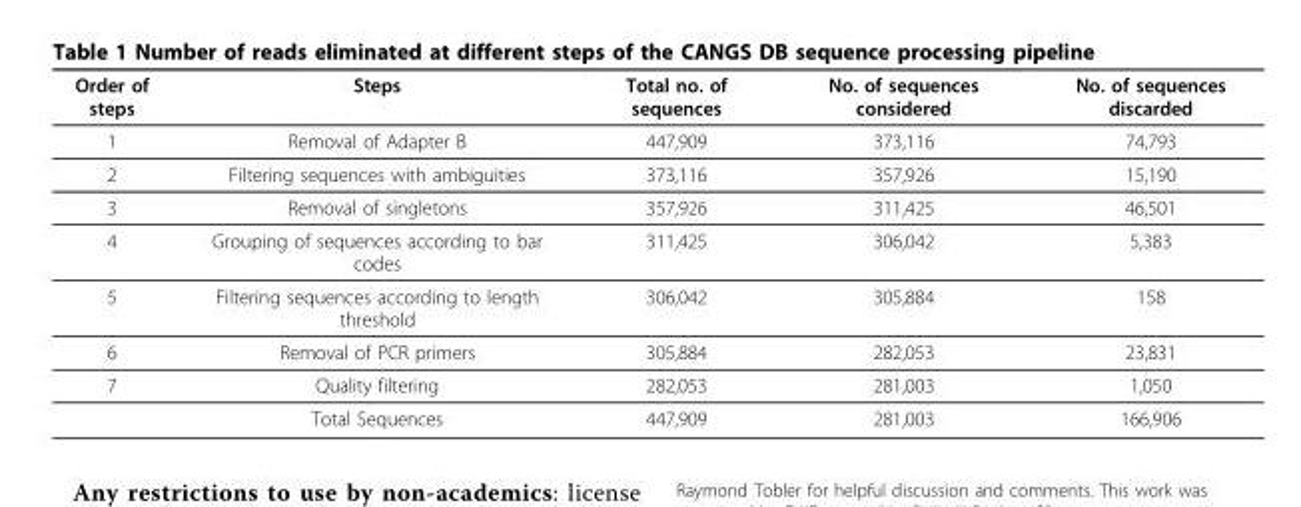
<table><thead><tr><td>Order of steps</td><td>Steps</td><td>Total no. of sequences</td><td>No. of sequences considered</td><td>No. of sequences discarded</td></tr></thead><tbody><tr><td>1</td><td>Removal of Adapter B</td><td>447,909</td><td>373,116</td><td>74,793</td></tr><tr><td>2</td><td>Filtering sequences with ambiguities</td><td>373,116</td><td>357,926</td><td>15,190</td></tr><tr><td>3</td><td>Removal of singletons</td><td>357,926</td><td>311,425</td><td>46,501</td></tr><tr><td>4</td><td>Grouping of sequences according to bar codes</td><td>311,425</td><td>306,042</td><td>5,383</td></tr><tr><td>5</td><td>Filtering sequences according to length threshold</td><td>306,042</td><td>305,884</td><td>158</td></tr><tr><td>6</td><td>Removal of PCR primers</td><td>305,884</td><td>282,053</td><td>23,831</td></tr><tr><td rowspan="2">7</td><td>Quality filtering</td><td>282,053</td><td>281,003</td><td>1,050</td></tr><tr><td>Total Sequences</td><td>447,909</td><td>281,003</td><td>166,906</td></tr></tbody></table>